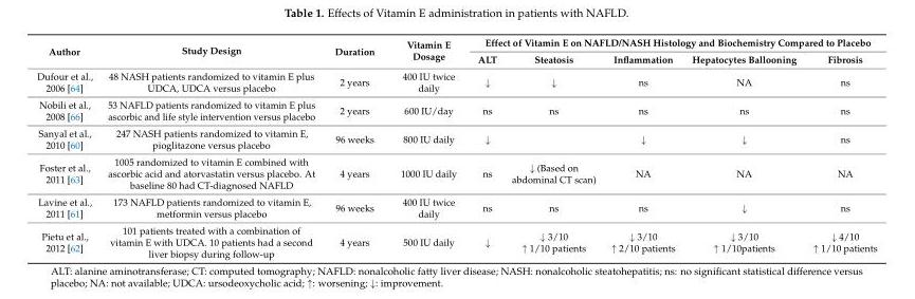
<table><thead><tr><td rowspan="2">Author</td><td rowspan="2">Study Design</td><td rowspan="2">Duration</td><td rowspan="2">Vitamin E Dosage</td><td colspan="5">Effect of Vitamin E on NAFLD/NASH Histology and Biochemistry Compared to Placebo</td></tr><tr><td>ALT</td><td>Steatosis</td><td>Inflammation</td><td>Hepatocytes Ballooning</td><td>Fibrosis</td></tr></thead><tbody><tr><td>Dufour et al., 2006 [64]</td><td>48 NASH patients randomized to vitamin E plus UDCA, UDCA versus placebo</td><td>2 years</td><td>400 IU twice daily</td><td>↓</td><td>↓</td><td>ns</td><td>NA</td><td>ns</td></tr><tr><td>Nobili et al., 2008 [66]</td><td>53 NAFLD patients randomized to vitamin E plus ascorbic and life style intervention versus placebo</td><td>2 years</td><td>600 IU/day</td><td>ns</td><td>ns</td><td>ns</td><td>ns</td><td>ns</td></tr><tr><td>Sanyal et al., 2010 [60]</td><td>247 NASH patients randomized to vitamin E, pioglitazone versus placebo</td><td>96 weeks</td><td>800 IU daily</td><td>↓</td><td></td><td>↓</td><td>↓</td><td>ns</td></tr><tr><td>Foster et al., 2011 [63]</td><td>1005 randomized to vitamin E combined with ascorbic acid and atorvastatin versus placebo. At baseline 80 had CT-diagnosed NAFLD</td><td>4 years</td><td>1000 IU daily</td><td>ns</td><td>↓ (Based on abdominal CT scan)</td><td>NA</td><td>NA</td><td>NA</td></tr><tr><td>Lavine et al., 2011 [61]</td><td>173 NAFLD patients randomized to vitamin E, metformin versus placebo</td><td>96 weeks</td><td>400 IU twice daily</td><td>ns</td><td>ns</td><td>ns</td><td>↓</td><td>ns</td></tr><tr><td>Pietu et al., 2012 [62]</td><td>101 patients treated with a combination of vitamin E with UDCA. 10 patients had a second liver biopsy during follow-up</td><td>4 years</td><td>500 IU daily</td><td>↓</td><td>↓ 3/10 ↑ 1/10 patients</td><td>↓ 3/10 ↑ 2/10 patients</td><td>↓ 3/10 ↑ 1/10patients</td><td>↓ 4/10 ↑ 1/10 patients</td></tr></tbody></table>